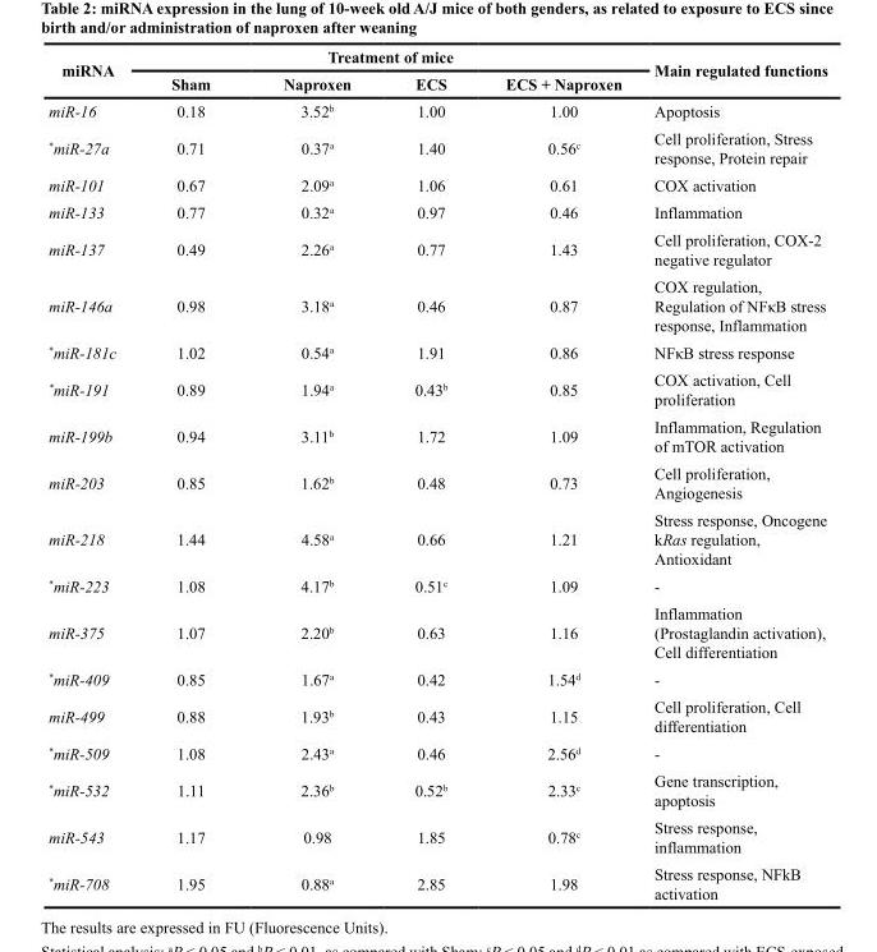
<table><thead><tr><td rowspan="2">miRNA</td><td colspan="4">Treatment of mice</td><td rowspan="2">Main regulated functions</td></tr><tr><td>Sham</td><td>Naproxen</td><td>ECS</td><td>ECS + Naproxen</td></tr></thead><tbody><tr><td>miR-16</td><td>0.18</td><td>3.52<sup>b</sup></td><td>1.00</td><td>1.00</td><td>Apoptosis</td></tr><tr><td>*miR-27a</td><td>0.71</td><td>0.37<sup>a</sup></td><td>1.40</td><td>0.56<sup>c</sup></td><td>Cell proliferation, Stress response, Protein repair</td></tr><tr><td>miR-101</td><td>0.67</td><td>2.09<sup>a</sup></td><td>1.06</td><td>0.61</td><td>COX activation</td></tr><tr><td>miR-133</td><td>0.77</td><td>0.32<sup>a</sup></td><td>0.97</td><td>0.46</td><td>Inflammation</td></tr><tr><td>miR-137</td><td>0.49</td><td>2.26<sup>a</sup></td><td>0.77</td><td>1.43</td><td>Cell proliferation, COX-2 negative regulator</td></tr><tr><td>miR-146a</td><td>0.98</td><td>3.18<sup>a</sup></td><td>0.46</td><td>0.87</td><td>COX regulation, Regulation of NFκB stress response, Inflammation</td></tr><tr><td>*miR-181c</td><td>1.02</td><td>0.54<sup>a</sup></td><td>1.91</td><td>0.86</td><td>NFκB stress response</td></tr><tr><td>*miR-191</td><td>0.89</td><td>1.94<sup>a</sup></td><td>0.43<sup>b</sup></td><td>0.85</td><td>COX activation, Cell proliferation</td></tr><tr><td>miR-199b</td><td>0.94</td><td>3.11<sup>b</sup></td><td>1.72</td><td>1.09</td><td>Inflammation, Regulation of mTOR activation</td></tr><tr><td>miR-203</td><td>0.85</td><td>1.62<sup>b</sup></td><td>0.48</td><td>0.73</td><td>Cell proliferation, Angiogenesis</td></tr><tr><td>miR-218</td><td>1.44</td><td>4.58<sup>a</sup></td><td>0.66</td><td>1.21</td><td>Stress response, Oncogene kRas regulation, Antioxidant</td></tr><tr><td>*miR-223</td><td>1.08</td><td>4.17<sup>b</sup></td><td>0.51<sup>c</sup></td><td>1.09</td><td>-</td></tr><tr><td>miR-375</td><td>1.07</td><td>2.20<sup>b</sup></td><td>0.63</td><td>1.16</td><td>Inflammation (Prostaglandin activation), Cell differentiation</td></tr><tr><td>*miR-409</td><td>0.85</td><td>1.67<sup>a</sup></td><td>0.42</td><td>1.54<sup>d</sup></td><td>-</td></tr><tr><td>miR-499</td><td>0.88</td><td>1.93<sup>b</sup></td><td>0.43</td><td>1.15</td><td>Cell proliferation, Cell differentiation</td></tr><tr><td>*miR-509</td><td>1.08</td><td>2.43<sup>a</sup></td><td>0.46</td><td>2.56<sup>d</sup></td><td>-</td></tr><tr><td>*miR-532</td><td>1.11</td><td>2.36<sup>b</sup></td><td>0.52<sup>b</sup></td><td>2.33<sup>c</sup></td><td>Gene transcription, apoptosis</td></tr><tr><td>miR-543</td><td>1.17</td><td>0.98</td><td>1.85</td><td>0.78<sup>c</sup></td><td>Stress response, inflammation</td></tr><tr><td>*miR-708</td><td>1.95</td><td>0.88<sup>a</sup></td><td>2.85</td><td>1.98</td><td>Stress response, NFkB activation</td></tr></tbody></table>